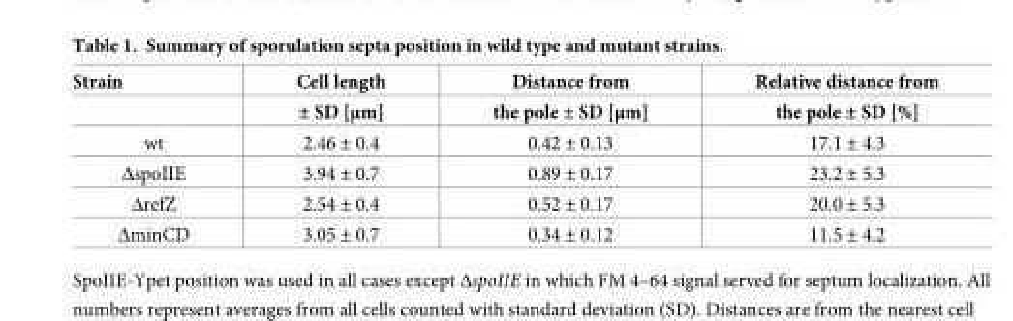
<table><thead><tr><td rowspan="2">Strain</td><td rowspan="2">Cell length ± SD [μm]</td><td rowspan="2">Distance from the pole ± SD [μm]</td><td rowspan="2">Relative distance from the pole ± SD [%]</td></tr><tr></tr></thead><tbody><tr><td>wt</td><td>2.46 ± 0.4</td><td>0.42 ± 0.13</td><td>17.1 ± 4.3</td></tr><tr><td>ΔspoIIE</td><td>3.94 ± 0.7</td><td>0.89 ± 0.17</td><td>23.2 ± 5.3</td></tr><tr><td>ΔrefZ</td><td>2.54 ± 0.4</td><td>0.52 ± 0.17</td><td>20.0 ± 5.3</td></tr><tr><td>ΔminCD</td><td>3.05 ± 0.7</td><td>0.34 ± 0.12</td><td>11.5 ± 4.2</td></tr></tbody></table>